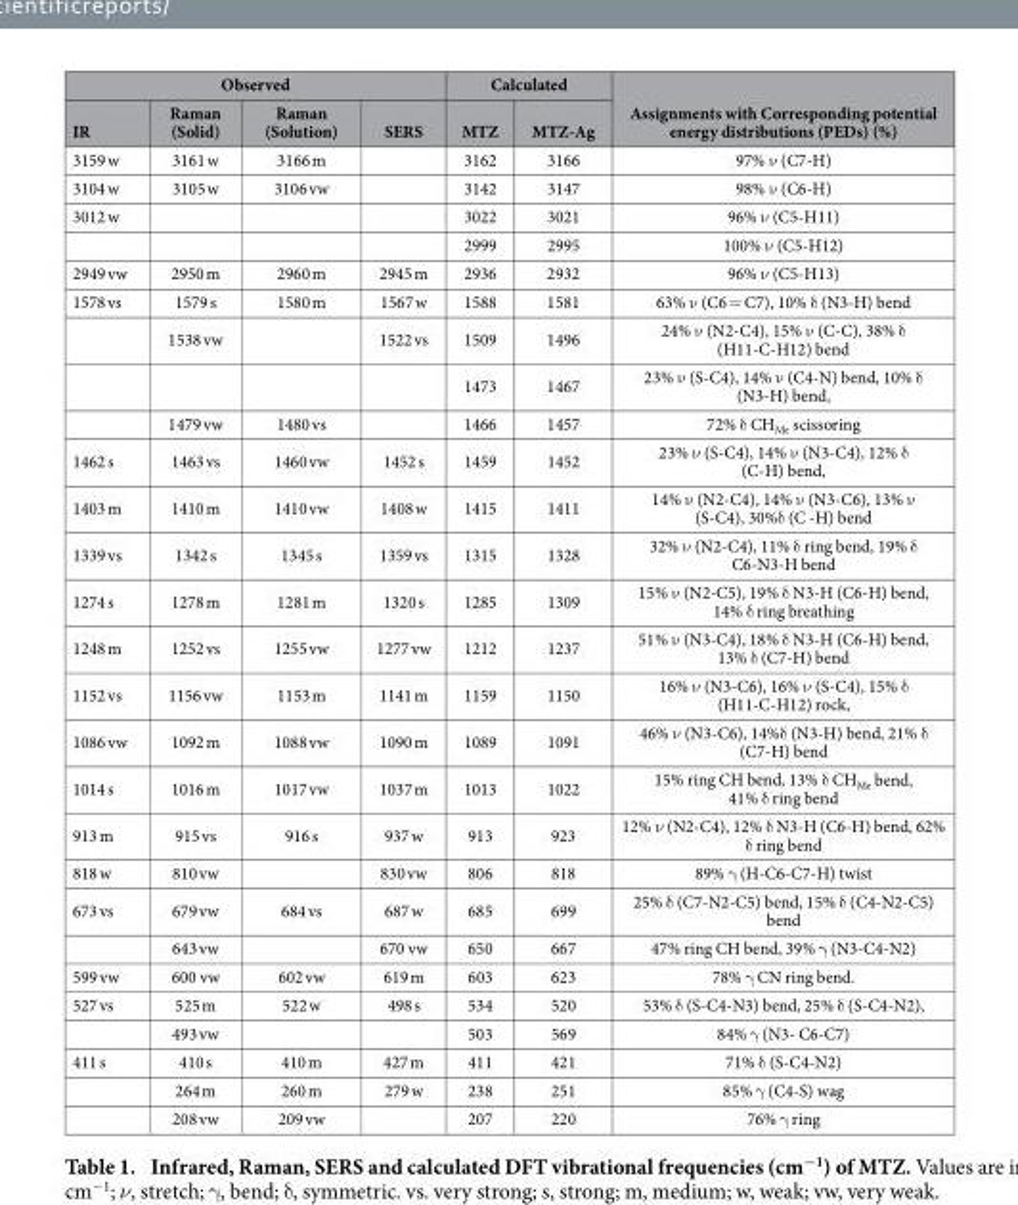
<table><thead><tr><td colspan="4">Observed</td><td colspan="2">Calculated</td><td rowspan="2">Assignments with Corresponding potential energy distributions (PEDs) (%)</td></tr><tr><td>IR</td><td>Raman (Solid)</td><td>Raman (Solution)</td><td>SERS</td><td>MTZ</td><td>MTZ-Ag</td></tr></thead><tbody><tr><td>3159 w</td><td>3161 w</td><td>3166 m</td><td></td><td>3162</td><td>3166</td><td>97% ν (C7-H)</td></tr><tr><td>3104 w</td><td>3105 w</td><td>3106 vw</td><td></td><td>3142</td><td>3147</td><td>98% ν (C6-H)</td></tr><tr><td rowspan="2">3012 w</td><td></td><td></td><td></td><td>3022</td><td>3021</td><td>96% ν (C5-H11)</td></tr><tr><td></td><td></td><td></td><td>2999</td><td>2995</td><td>100% ν (C5-H12)</td></tr><tr><td>2949 vw</td><td>2950 m</td><td>2960 m</td><td>2945 m</td><td>2936</td><td>2932</td><td>96% ν (C5-H13)</td></tr><tr><td rowspan="4">1578 vs</td><td>1579 s</td><td>1580 m</td><td>1567 w</td><td>1588</td><td>1581</td><td>63% ν (C6 = C7), 10% δ (N3-H) bend</td></tr><tr><td>1538 vw</td><td></td><td>1522 vs</td><td>1509</td><td>1496</td><td>24% ν (N2-C4), 15% ν (C-C), 38% δ (H11-C-H12) bend</td></tr><tr><td></td><td></td><td></td><td>1473</td><td>1467</td><td>23% ν (S-C4), 14% ν (C4-N) bend, 10% δ (N3-H) bend,</td></tr><tr><td>1479 vw</td><td>1480 vs</td><td></td><td>1466</td><td>1457</td><td>72% δ CH<sub>Me</sub> scissoring</td></tr><tr><td>1462 s</td><td>1463 vs</td><td>1460 vw</td><td>1452 s</td><td>1459</td><td>1452</td><td>23% ν (S-C4), 14% ν (N3-C4), 12% δ (C-H) bend,</td></tr><tr><td>1403 m</td><td>1410 m</td><td>1410 vw</td><td>1408 w</td><td>1415</td><td>1411</td><td>14% ν (N2-C4), 14% ν (N3-C6), 13% ν (S-C4), 30%δ (C -H) bend</td></tr><tr><td>1339 vs</td><td>1342 s</td><td>1345 s</td><td>1359 vs</td><td>1315</td><td>1328</td><td>32% ν (N2-C4), 11% δ ring bend, 19% δ C6-N3-H bend</td></tr><tr><td>1274 s</td><td>1278 m</td><td>1281 m</td><td>1320 s</td><td>1285</td><td>1309</td><td>15% ν (N2-C5), 19% δ N3-H (C6-H) bend, 14% δ ring breathing</td></tr><tr><td>1248 m</td><td>1252 vs</td><td>1255 vw</td><td>1277 vw</td><td>1212</td><td>1237</td><td>51% ν (N3-C4), 18% δ N3-H (C6-H) bend, 13% δ (C7-H) bend</td></tr><tr><td>1152 vs</td><td>1156 vw</td><td>1153 m</td><td>1141 m</td><td>1159</td><td>1150</td><td>16% ν (N3-C6), 16% ν (S-C4), 15% δ (H11-C-H12) rock,</td></tr><tr><td>1086 vw</td><td>1092 m</td><td>1088 vw</td><td>1090 m</td><td>1089</td><td>1091</td><td>46% ν (N3-C6), 14%δ (N3-H) bend, 21% δ (C7-H) bend</td></tr><tr><td>1014 s</td><td>1016 m</td><td>1017 vw</td><td>1037 m</td><td>1013</td><td>1022</td><td>15% ring CH bend, 13% δ CH<sub>Me</sub> bend, 41% δ ring bend</td></tr><tr><td>913 m</td><td>915 vs</td><td>916 s</td><td>937 w</td><td>913</td><td>923</td><td>12% ν (N2-C4), 12% δ N3-H (C6-H) bend, 62% δ ring bend</td></tr><tr><td>818 w</td><td>810 vw</td><td></td><td>830 vw</td><td>806</td><td>818</td><td>89% γ (H-C6-C7-H) twist</td></tr><tr><td rowspan="2">673 vs</td><td>679 vw</td><td>684 vs</td><td>687 w</td><td>685</td><td>699</td><td>25% δ (C7-N2-C5) bend, 15% δ (C4-N2-C5) bend</td></tr><tr><td>643 vw</td><td></td><td>670 vw</td><td>650</td><td>667</td><td>47% ring CH bend, 39% γ (N3-C4-N2)</td></tr><tr><td>599 vw</td><td>600 vw</td><td>602 vw</td><td>619 m</td><td>603</td><td>623</td><td>78% γ CN ring bend.</td></tr><tr><td rowspan="2">527 vs</td><td>525 m</td><td>522 w</td><td>498 s</td><td>534</td><td>520</td><td>53% δ (S-C4-N3) bend, 25% δ (S-C4-N2),</td></tr><tr><td>493 vw</td><td></td><td></td><td>503</td><td>569</td><td>84% γ (N3- C6-C7)</td></tr><tr><td rowspan="3">411 s</td><td>410 s</td><td>410 m</td><td>427 m</td><td>411</td><td>421</td><td>71% δ (S-C4-N2)</td></tr><tr><td>264 m</td><td>260 m</td><td>279 w</td><td>238</td><td>251</td><td>85% γ (C4-S) wag</td></tr><tr><td>208 vw</td><td>209 vw</td><td></td><td>207</td><td>220</td><td>76% γ ring</td></tr></tbody></table>